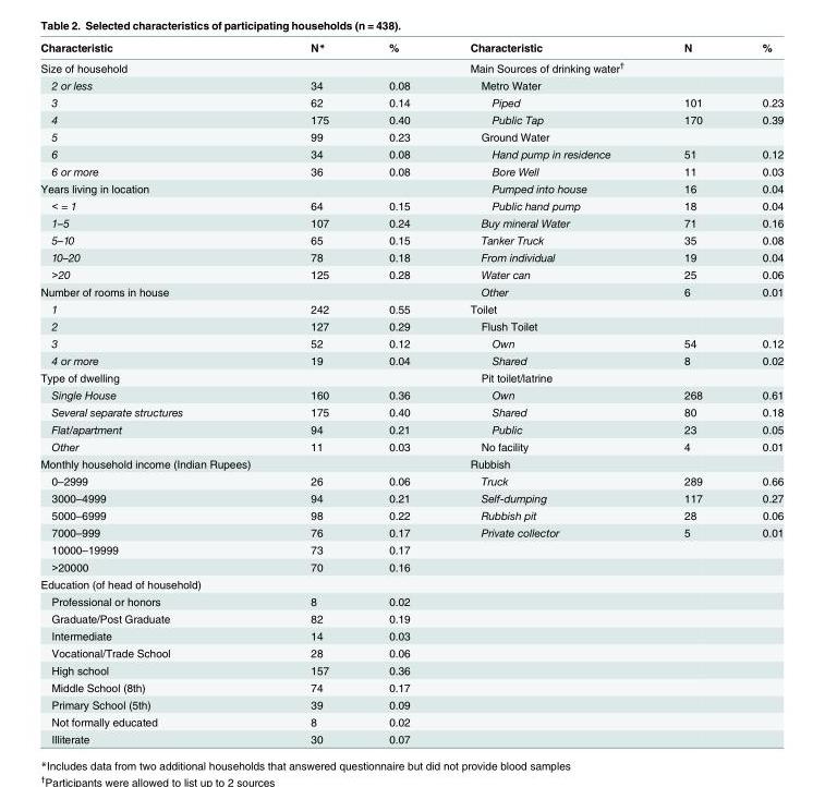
<table><thead><tr><td>Characteristic</td><td>N*</td><td>%</td><td>Characteristic</td><td>N</td><td>%</td></tr></thead><tbody><tr><td>Size of household</td><td></td><td></td><td>Main Sources of drinking water<sup>†</sup></td><td></td><td></td></tr><tr><td>2 or less</td><td>34</td><td>0.08</td><td>Metro Water</td><td></td><td></td></tr><tr><td>3</td><td>62</td><td>0.14</td><td>Piped</td><td>101</td><td>0.23</td></tr><tr><td>4</td><td>175</td><td>0.40</td><td>Public Tap</td><td>170</td><td>0.39</td></tr><tr><td>5</td><td>99</td><td>0.23</td><td>Ground Water</td><td></td><td></td></tr><tr><td>6</td><td>34</td><td>0.08</td><td>Hand pump in residence</td><td>51</td><td>0.12</td></tr><tr><td>6 or more</td><td>36</td><td>0.08</td><td>Bore Well</td><td>11</td><td>0.03</td></tr><tr><td>Years living in location</td><td></td><td></td><td>Pumped into house</td><td>16</td><td>0.04</td></tr><tr><td>&lt; = 1</td><td>64</td><td>0.15</td><td>Public hand pump</td><td>18</td><td>0.04</td></tr><tr><td>1–5</td><td>107</td><td>0.24</td><td>Buy mineral Water</td><td>71</td><td>0.16</td></tr><tr><td>5–10</td><td>65</td><td>0.15</td><td>Tanker Truck</td><td>35</td><td>0.08</td></tr><tr><td>10–20</td><td>78</td><td>0.18</td><td>From individual</td><td>19</td><td>0.04</td></tr><tr><td>&gt;20</td><td>125</td><td>0.28</td><td>Water can</td><td>25</td><td>0.06</td></tr><tr><td>Number of rooms in house</td><td></td><td></td><td>Other</td><td>6</td><td>0.01</td></tr><tr><td>1</td><td>242</td><td>0.55</td><td>Toilet</td><td></td><td></td></tr><tr><td>2</td><td>127</td><td>0.29</td><td>Flush Toilet</td><td></td><td></td></tr><tr><td>3</td><td>52</td><td>0.12</td><td>Own</td><td>54</td><td>0.12</td></tr><tr><td>4 or more</td><td>19</td><td>0.04</td><td>Shared</td><td>8</td><td>0.02</td></tr><tr><td>Type of dwelling</td><td></td><td></td><td>Pit toilet/latrine</td><td></td><td></td></tr><tr><td>Single House</td><td>160</td><td>0.36</td><td>Own</td><td>268</td><td>0.61</td></tr><tr><td>Several separate structures</td><td>175</td><td>0.40</td><td>Shared</td><td>80</td><td>0.18</td></tr><tr><td>Flat/apartment</td><td>94</td><td>0.21</td><td>Public</td><td>23</td><td>0.05</td></tr><tr><td>Other</td><td>11</td><td>0.03</td><td>No facility</td><td>4</td><td>0.01</td></tr><tr><td>Monthly household income (Indian Rupees)</td><td></td><td></td><td>Rubbish</td><td></td><td></td></tr><tr><td>0–2999</td><td>26</td><td>0.06</td><td>Truck</td><td>289</td><td>0.66</td></tr><tr><td>3000–4999</td><td>94</td><td>0.21</td><td>Self-dumping</td><td>117</td><td>0.27</td></tr><tr><td>5000–6999</td><td>98</td><td>0.22</td><td>Rubbish pit</td><td>28</td><td>0.06</td></tr><tr><td>7000–999</td><td>76</td><td>0.17</td><td>Private collector</td><td>5</td><td>0.01</td></tr><tr><td>10000–19999</td><td>73</td><td>0.17</td><td></td><td></td><td></td></tr><tr><td>&gt;20000</td><td>70</td><td>0.16</td><td></td><td></td><td></td></tr><tr><td colspan="6">Education (of head of household)</td></tr><tr><td>Professional or honors</td><td>8</td><td>0.02</td><td></td><td></td><td></td></tr><tr><td>Graduate/Post Graduate</td><td>82</td><td>0.19</td><td></td><td></td><td></td></tr><tr><td>Intermediate</td><td>14</td><td>0.03</td><td></td><td></td><td></td></tr><tr><td>Vocational/Trade School</td><td>28</td><td>0.06</td><td></td><td></td><td></td></tr><tr><td>High school</td><td>157</td><td>0.36</td><td></td><td></td><td></td></tr><tr><td>Middle School (8th)</td><td>74</td><td>0.17</td><td></td><td></td><td></td></tr><tr><td>Primary School (5th)</td><td>39</td><td>0.09</td><td></td><td></td><td></td></tr><tr><td>Not formally educated</td><td>8</td><td>0.02</td><td></td><td></td><td></td></tr><tr><td>Illiterate</td><td>30</td><td>0.07</td><td></td><td></td><td></td></tr></tbody></table>